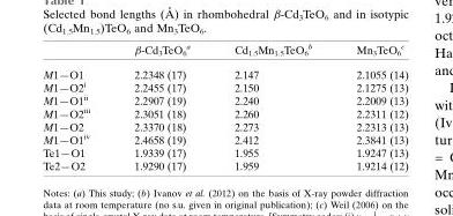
<table><thead><tr><td></td><td>β-Cd<sub>3</sub>TeO<sub>6</sub> <sup>a</sup></td><td>Cd<sub>1.5</sub>Mn<sub>1.5</sub>TeO<sub>6</sub> <sup>b</sup></td><td>Mn<sub>3</sub>TeO<sub>6</sub> <sup>c</sup></td></tr></thead><tbody><tr><td>M1—O1</td><td>2.2348 (17)</td><td>2.147</td><td>2.1055 (14)</td></tr><tr><td>M1—O2<sup>i</sup></td><td>2.2455 (17)</td><td>2.150</td><td>2.1275 (13)</td></tr><tr><td>M1—O1<sup>ii</sup></td><td>2.2907 (19)</td><td>2.240</td><td>2.2009 (13)</td></tr><tr><td>M1—O2<sup>iii</sup></td><td>2.3051 (18)</td><td>2.260</td><td>2.2311 (12)</td></tr><tr><td>M1—O2</td><td>2.3370 (18)</td><td>2.273</td><td>2.2313 (13)</td></tr><tr><td>M1—O1<sup>iv</sup></td><td>2.4658 (19)</td><td>2.412</td><td>2.3841 (13)</td></tr><tr><td>Te1—O1</td><td>1.9339 (17)</td><td>1.955</td><td>1.9247 (13)</td></tr><tr><td>Te2—O2</td><td>1.9290 (17)</td><td>1.959</td><td>1.9214 (12)</td></tr></tbody></table>